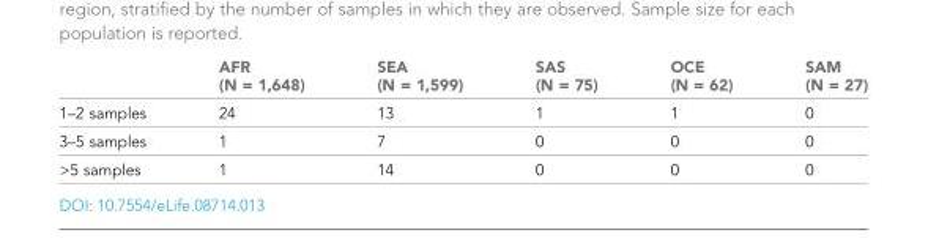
<table><thead><tr><td></td><td>AFR (N = 1,648)</td><td>SEA (N = 1,599)</td><td>SAS (N = 75)</td><td>OCE (N = 62)</td><td>SAM (N = 27)</td></tr></thead><tbody><tr><td>1–2 samples</td><td>24</td><td>13</td><td>1</td><td>1</td><td>0</td></tr><tr><td>3–5 samples</td><td>1</td><td>7</td><td>0</td><td>0</td><td>0</td></tr><tr><td>&gt;5 samples</td><td>1</td><td>14</td><td>0</td><td>0</td><td>0</td></tr></tbody></table>